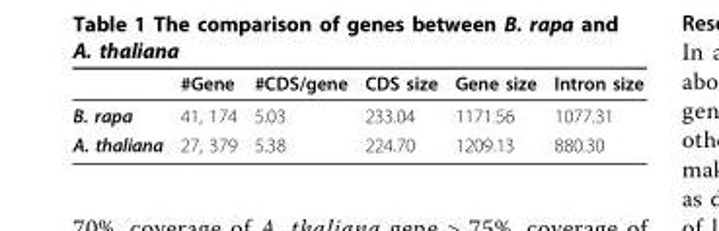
<table><thead><tr><td></td><td>#Gene</td><td>#CDS/gene</td><td>CDS size</td><td>Gene size</td><td>Intron size</td></tr></thead><tbody><tr><td>B. rapa</td><td>41, 174</td><td>5.03</td><td>233.04</td><td>1171.56</td><td>1077.31</td></tr><tr><td>A. thaliana</td><td>27, 379</td><td>5.38</td><td>224.70</td><td>1209.13</td><td>880.30</td></tr></tbody></table>